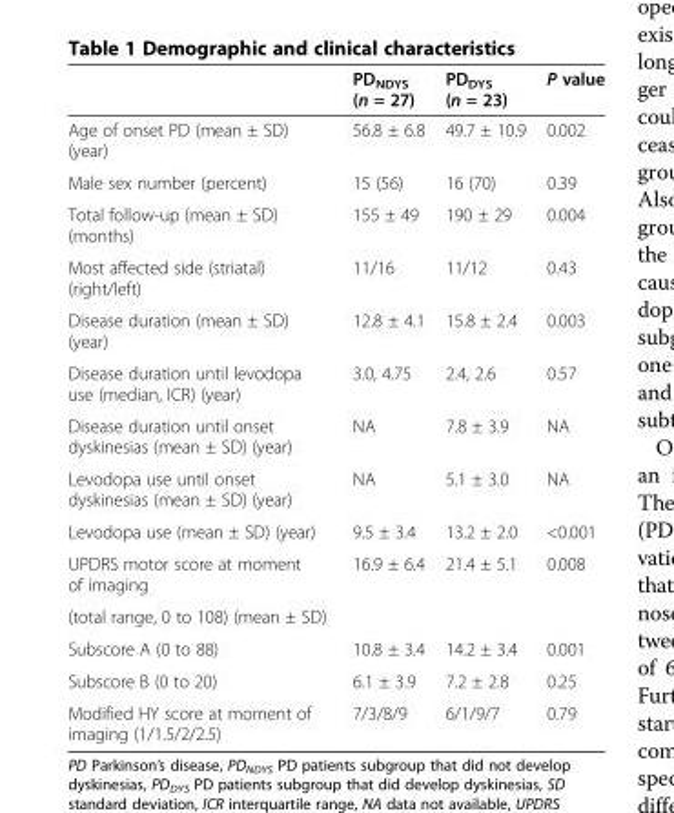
<table><thead><tr><td></td><td>PD<sub>NDYS</sub> (n = 27)</td><td>PD<sub>DYS</sub> (n = 23)</td><td>P value</td></tr></thead><tbody><tr><td>Age of onset PD (mean ± SD) (year)</td><td>56.8 ± 6.8</td><td>49.7 ± 10.9</td><td>0.002</td></tr><tr><td>Male sex number (percent)</td><td>15 (56)</td><td>16 (70)</td><td>0.39</td></tr><tr><td>Total follow-up (mean ± SD) (months)</td><td>155 ± 49</td><td>190 ± 29</td><td>0.004</td></tr><tr><td>Most affected side (striatal) (right/left)</td><td>11/16</td><td>11/12</td><td>0.43</td></tr><tr><td>Disease duration (mean ± SD) (year)</td><td>12.8 ± 4.1</td><td>15.8 ± 2.4</td><td>0.003</td></tr><tr><td>Disease duration until levodopa use (median, ICR) (year)</td><td>3.0, 4.75</td><td>2.4, 2.6</td><td>0.57</td></tr><tr><td>Disease duration until onset dyskinesias (mean ± SD) (year)</td><td>NA</td><td>7.8 ± 3.9</td><td>NA</td></tr><tr><td>Levodopa use until onset dyskinesias (mean ± SD) (year)</td><td>NA</td><td>5.1 ± 3.0</td><td>NA</td></tr><tr><td>Levodopa use (mean ± SD) (year)</td><td>9.5 ± 3.4</td><td>13.2 ± 2.0</td><td>&lt;0.001</td></tr><tr><td>UPDRS motor score at moment of imaging</td><td>16.9 ± 6.4</td><td>21.4 ± 5.1</td><td>0.008</td></tr><tr><td colspan="4">(total range, 0 to 108) (mean ± SD)</td></tr><tr><td>Subscore A (0 to 88)</td><td>10.8 ± 3.4</td><td>14.2 ± 3.4</td><td>0.001</td></tr><tr><td>Subscore B (0 to 20)</td><td>6.1 ± 3.9</td><td>7.2 ± 2.8</td><td>0.25</td></tr><tr><td>Modified HY score at moment of imaging (1/1.5/2/2.5)</td><td>7/3/8/9</td><td>6/1/9/7</td><td>0.79</td></tr></tbody></table>